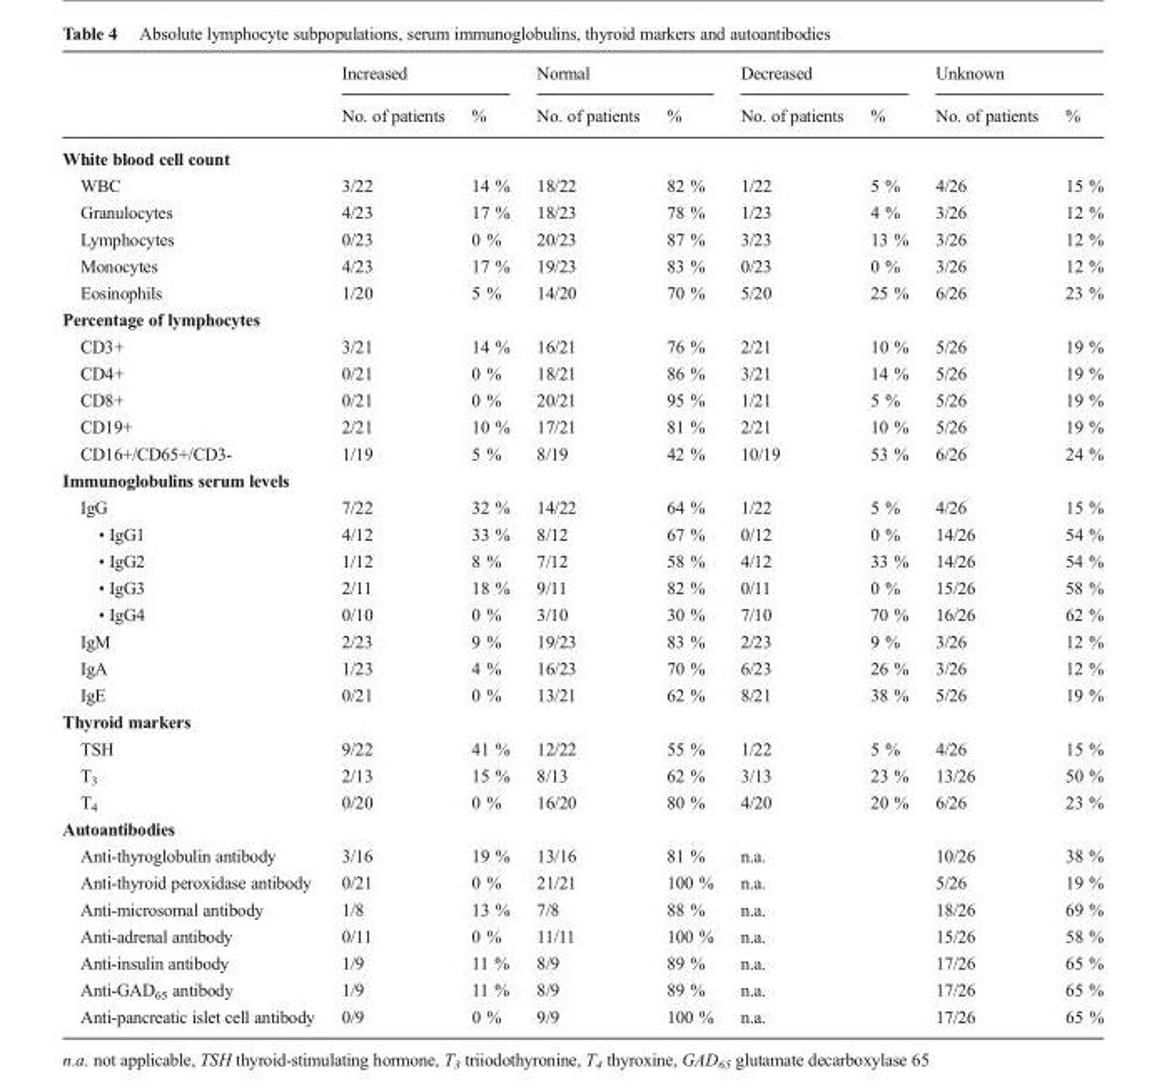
<table><thead><tr><td rowspan="2"></td><td colspan="2">Increased</td><td colspan="2">Normal</td><td colspan="2">Decreased</td><td colspan="2">Unknown</td></tr><tr><td>No. of patients</td><td>%</td><td>No. of patients</td><td>%</td><td>No. of patients</td><td>%</td><td>No. of patients</td><td>%</td></tr></thead><tbody><tr><td colspan="9">White blood cell count</td></tr><tr><td>WBC</td><td>3/22</td><td>14 %</td><td>18/22</td><td>82 %</td><td>1/22</td><td>5 %</td><td>4/26</td><td>15 %</td></tr><tr><td>Granulocytes</td><td>4/23</td><td>17 %</td><td>18/23</td><td>78 %</td><td>1/23</td><td>4 %</td><td>3/26</td><td>12 %</td></tr><tr><td>Lymphocytes</td><td>0/23</td><td>0 %</td><td>20/23</td><td>87 %</td><td>3/23</td><td>13 %</td><td>3/26</td><td>12 %</td></tr><tr><td>Monocytes</td><td>4/23</td><td>17 %</td><td>19/23</td><td>83 %</td><td>0/23</td><td>0 %</td><td>3/26</td><td>12 %</td></tr><tr><td>Eosinophils</td><td>1/20</td><td>5 %</td><td>14/20</td><td>70 %</td><td>5/20</td><td>25 %</td><td>6/26</td><td>23 %</td></tr><tr><td colspan="9">Percentage of lymphocytes</td></tr><tr><td>CD3+</td><td>3/21</td><td>14 %</td><td>16/21</td><td>76 %</td><td>2/21</td><td>10 %</td><td>5/26</td><td>19 %</td></tr><tr><td>CD4+</td><td>0/21</td><td>0 %</td><td>18/21</td><td>86 %</td><td>3/21</td><td>14 %</td><td>5/26</td><td>19 %</td></tr><tr><td>CD8+</td><td>0/21</td><td>0 %</td><td>20/21</td><td>95 %</td><td>1/21</td><td>5 %</td><td>5/26</td><td>19 %</td></tr><tr><td>CD19+</td><td>2/21</td><td>10 %</td><td>17/21</td><td>81 %</td><td>2/21</td><td>10 %</td><td>5/26</td><td>19 %</td></tr><tr><td>CD16+/CD65+/CD3-</td><td>1/19</td><td>5 %</td><td>8/19</td><td>42 %</td><td>10/19</td><td>53 %</td><td>6/26</td><td>24 %</td></tr><tr><td colspan="9">Immunoglobulins serum levels</td></tr><tr><td>IgG</td><td>7/22</td><td>32 %</td><td>14/22</td><td>64 %</td><td>1/22</td><td>5 %</td><td>4/26</td><td>15 %</td></tr><tr><td>• IgG1</td><td>4/12</td><td>33 %</td><td>8/12</td><td>67 %</td><td>0/12</td><td>0 %</td><td>14/26</td><td>54 %</td></tr><tr><td>• IgG2</td><td>1/12</td><td>8 %</td><td>7/12</td><td>58 %</td><td>4/12</td><td>33 %</td><td>14/26</td><td>54 %</td></tr><tr><td>• IgG3</td><td>2/11</td><td>18 %</td><td>9/11</td><td>82 %</td><td>0/11</td><td>0 %</td><td>15/26</td><td>58 %</td></tr><tr><td>• IgG4</td><td>0/10</td><td>0 %</td><td>3/10</td><td>30 %</td><td>7/10</td><td>70 %</td><td>16/26</td><td>62 %</td></tr><tr><td>IgM</td><td>2/23</td><td>9 %</td><td>19/23</td><td>83 %</td><td>2/23</td><td>9 %</td><td>3/26</td><td>12 %</td></tr><tr><td>IgA</td><td>1/23</td><td>4 %</td><td>16/23</td><td>70 %</td><td>6/23</td><td>26 %</td><td>3/26</td><td>12 %</td></tr><tr><td>IgE</td><td>0/21</td><td>0 %</td><td>13/21</td><td>62 %</td><td>8/21</td><td>38 %</td><td>5/26</td><td>19 %</td></tr><tr><td colspan="9">Thyroid markers</td></tr><tr><td>TSH</td><td>9/22</td><td>41 %</td><td>12/22</td><td>55 %</td><td>1/22</td><td>5 %</td><td>4/26</td><td>15 %</td></tr><tr><td>T<sub>3</sub></td><td>2/13</td><td>15 %</td><td>8/13</td><td>62 %</td><td>3/13</td><td>23 %</td><td>13/26</td><td>50 %</td></tr><tr><td>T<sub>4</sub></td><td>0/20</td><td>0 %</td><td>16/20</td><td>80 %</td><td>4/20</td><td>20 %</td><td>6/26</td><td>23 %</td></tr><tr><td colspan="9">Autoantibodies</td></tr><tr><td>Anti-thyroglobulin antibody</td><td>3/16</td><td>19 %</td><td>13/16</td><td>81 %</td><td>n.a.</td><td></td><td>10/26</td><td>38 %</td></tr><tr><td>Anti-thyroid peroxidase antibody</td><td>0/21</td><td>0 %</td><td>21/21</td><td>100 %</td><td>n.a.</td><td></td><td>5/26</td><td>19 %</td></tr><tr><td>Anti-microsomal antibody</td><td>1/8</td><td>13 %</td><td>7/8</td><td>88 %</td><td>n.a.</td><td></td><td>18/26</td><td>69 %</td></tr><tr><td>Anti-adrenal antibody</td><td>0/11</td><td>0 %</td><td>11/11</td><td>100 %</td><td>n.a.</td><td></td><td>15/26</td><td>58 %</td></tr><tr><td>Anti-insulin antibody</td><td>1/9</td><td>11 %</td><td>8/9</td><td>89 %</td><td>n.a.</td><td></td><td>17/26</td><td>65 %</td></tr><tr><td>Anti-GAD<sub>65</sub> antibody</td><td>1/9</td><td>11 %</td><td>8/9</td><td>89 %</td><td>n.a.</td><td></td><td>17/26</td><td>65 %</td></tr><tr><td>Anti-pancreatic islet cell antibody</td><td>0/9</td><td>0 %</td><td>9/9</td><td>100 %</td><td>n.a.</td><td></td><td>17/26</td><td>65 %</td></tr></tbody></table>